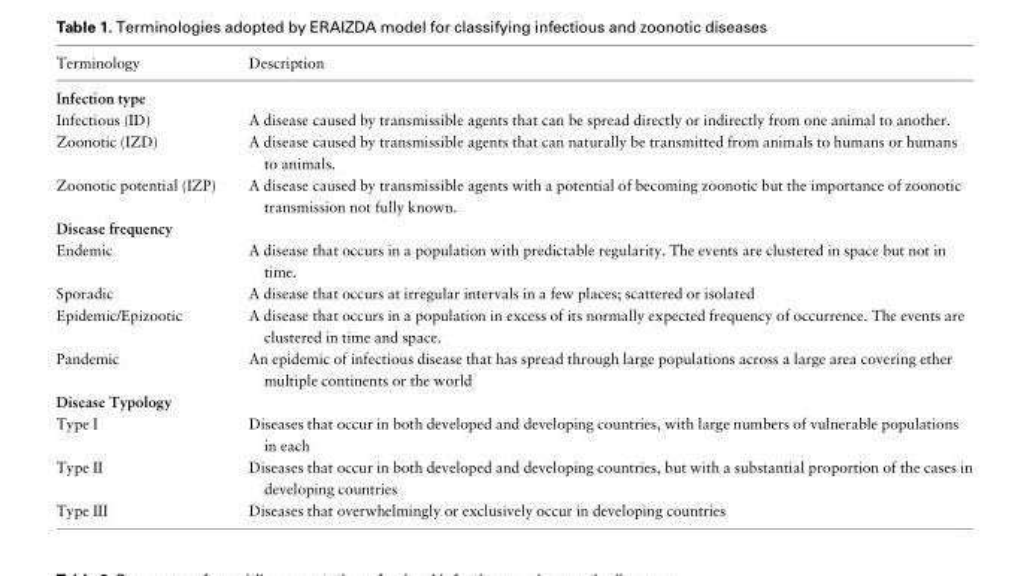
<table><thead><tr><td>Terminology</td><td>Description</td></tr></thead><tbody><tr><td colspan="2">Infection type</td></tr><tr><td>Infectious (ID)</td><td>A disease caused by transmissible agents that can be spread directly or indirectly from one animal to another.</td></tr><tr><td>Zoonotic (IZD)</td><td>A disease caused by transmissible agents that can naturally be transmitted from animals to humans or humans to animals.</td></tr><tr><td>Zoonotic potential (IZP)</td><td>A disease caused by transmissible agents with a potential of becoming zoonotic but the importance of zoonotic transmission not fully known.</td></tr><tr><td colspan="2">Disease frequency</td></tr><tr><td>Endemic</td><td>A disease that occurs in a population with predictable regularity. The events are clustered in space but not in time.</td></tr><tr><td>Sporadic</td><td>A disease that occurs at irregular intervals in a few places; scattered or isolated</td></tr><tr><td>Epidemic/Epizootic</td><td>A disease that occurs in a population in excess of its normally expected frequency of occurrence. The events are clustered in time and space.</td></tr><tr><td>Pandemic</td><td>An epidemic of infectious disease that has spread through large populations across a large area covering ether multiple continents or the world</td></tr><tr><td colspan="2">Disease Typology</td></tr><tr><td>Type I</td><td>Diseases that occur in both developed and developing countries, with large numbers of vulnerable populations in each</td></tr><tr><td>Type II</td><td>Diseases that occur in both developed and developing countries, but with a substantial proportion of the cases in developing countries</td></tr><tr><td>Type III</td><td>Diseases that overwhelmingly or exclusively occur in developing countries</td></tr></tbody></table>